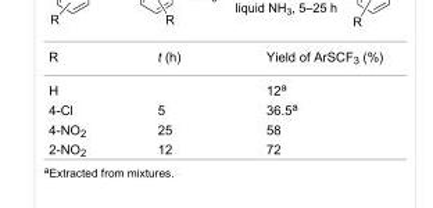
<table><tbody><tr><td>R</td><td>t (h)</td><td>Yield of ArSCF<sub>3</sub> (%)</td></tr><tr><td>H</td><td></td><td>12<sup>a</sup></td></tr><tr><td>4-Cl</td><td>5</td><td>36.5<sup>a</sup></td></tr><tr><td>4-NO<sub>2</sub></td><td>25</td><td>58</td></tr><tr><td>2-NO<sub>2</sub></td><td>12</td><td>72</td></tr></tbody></table>